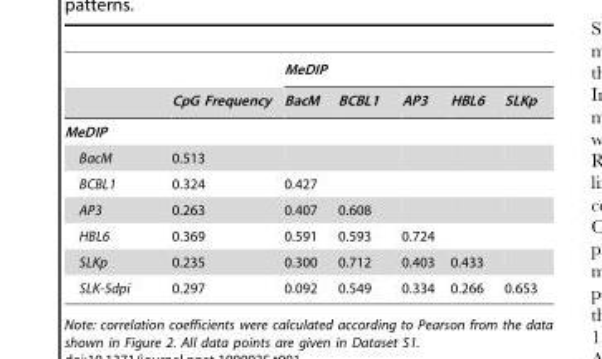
<table><thead><tr><td rowspan="2"></td><td rowspan="2">CpG Frequency</td><td colspan="5">MeDIP</td></tr><tr><td>BacM</td><td>BCBL1</td><td>AP3</td><td>HBL6</td><td>SLKp</td></tr></thead><tbody><tr><td colspan="7">MeDIP</td></tr><tr><td>BacM</td><td>0.513</td><td></td><td></td><td></td><td></td><td></td></tr><tr><td>BCBL1</td><td>0.324</td><td>0.427</td><td></td><td></td><td></td><td></td></tr><tr><td>AP3</td><td>0.263</td><td>0.407</td><td>0.608</td><td></td><td></td><td></td></tr><tr><td>HBL6</td><td>0.369</td><td>0.591</td><td>0.593</td><td>0.724</td><td></td><td></td></tr><tr><td>SLKp</td><td>0.235</td><td>0.300</td><td>0.712</td><td>0.403</td><td>0.433</td><td></td></tr><tr><td>SLK-5dpi</td><td>0.297</td><td>0.092</td><td>0.549</td><td>0.334</td><td>0.266</td><td>0.653</td></tr></tbody></table>